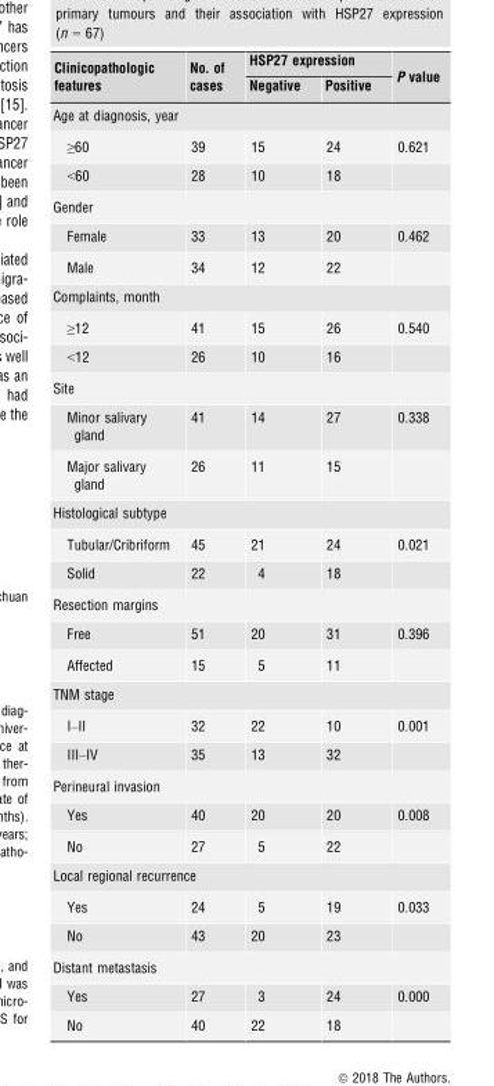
<table><thead><tr><td rowspan="2">Clinicopathologic features</td><td rowspan="2">No. of cases</td><td colspan="2">HSP27 expression</td><td rowspan="2">P value</td></tr><tr><td>Negative</td><td>Positive</td></tr></thead><tbody><tr><td colspan="5">Age at diagnosis, year</td></tr><tr><td>≥60</td><td>39</td><td>15</td><td>24</td><td>0.621</td></tr><tr><td>&lt;60</td><td>28</td><td>10</td><td>18</td><td></td></tr><tr><td colspan="5">Gender</td></tr><tr><td>Female</td><td>33</td><td>13</td><td>20</td><td>0.462</td></tr><tr><td>Male</td><td>34</td><td>12</td><td>22</td><td></td></tr><tr><td colspan="5">Complaints, month</td></tr><tr><td>≥12</td><td>41</td><td>15</td><td>26</td><td>0.540</td></tr><tr><td>&lt;12</td><td>26</td><td>10</td><td>16</td><td></td></tr><tr><td colspan="5">Site</td></tr><tr><td>Minor salivary gland</td><td>41</td><td>14</td><td>27</td><td>0.338</td></tr><tr><td>Major salivary gland</td><td>26</td><td>11</td><td>15</td><td></td></tr><tr><td colspan="5">Histological subtype</td></tr><tr><td>Tubular/Cribriform</td><td>45</td><td>21</td><td>24</td><td>0.021</td></tr><tr><td>Solid</td><td>22</td><td>4</td><td>18</td><td></td></tr><tr><td colspan="5">Resection margins</td></tr><tr><td>Free</td><td>51</td><td>20</td><td>31</td><td>0.396</td></tr><tr><td>Affected</td><td>15</td><td>5</td><td>11</td><td></td></tr><tr><td colspan="5">TNM stage</td></tr><tr><td>I–II</td><td>32</td><td>22</td><td>10</td><td>0.001</td></tr><tr><td>III–IV</td><td>35</td><td>13</td><td>32</td><td></td></tr><tr><td colspan="5">Perineural invasion</td></tr><tr><td>Yes</td><td>40</td><td>20</td><td>20</td><td>0.008</td></tr><tr><td>No</td><td>27</td><td>5</td><td>22</td><td></td></tr><tr><td colspan="5">Local regional recurrence</td></tr><tr><td>Yes</td><td>24</td><td>5</td><td>19</td><td>0.033</td></tr><tr><td>No</td><td>43</td><td>20</td><td>23</td><td></td></tr><tr><td colspan="5">Distant metastasis</td></tr><tr><td>Yes</td><td>27</td><td>3</td><td>24</td><td>0.000</td></tr><tr><td>No</td><td>40</td><td>22</td><td>18</td><td></td></tr></tbody></table>